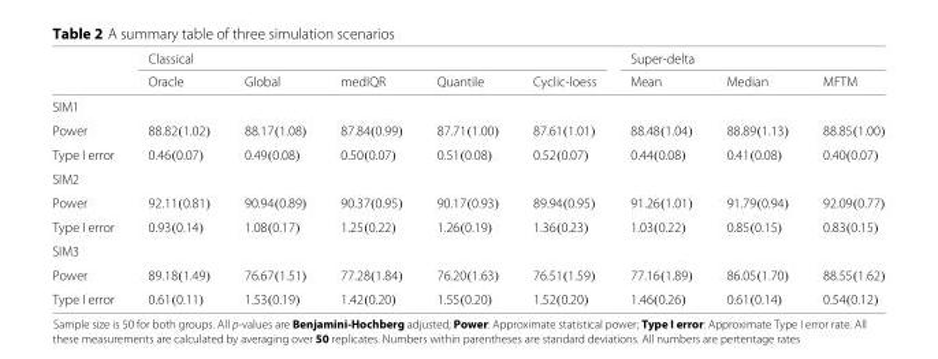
<table><thead><tr><td rowspan="2"></td><td colspan="4">Classical</td><td rowspan="2">Cyclic-loess</td><td colspan="3">Super-delta</td></tr><tr><td>Oracle</td><td>Global</td><td>medIQR</td><td>Quantile</td><td>Mean</td><td>Median</td><td>MFTM</td></tr></thead><tbody><tr><td colspan="9">SIM1</td></tr><tr><td>Power</td><td>88.82(1.02)</td><td>88.17(1.08)</td><td>87.84(0.99)</td><td>87.71(1.00)</td><td>87.61(1.01)</td><td>88.48(1.04)</td><td>88.89(1.13)</td><td>88.85(1.00)</td></tr><tr><td>Type I error</td><td>0.46(0.07)</td><td>0.49(0.08)</td><td>0.50(0.07)</td><td>0.51(0.08)</td><td>0.52(0.07)</td><td>0.44(0.08)</td><td>0.41(0.08)</td><td>0.40(0.07)</td></tr><tr><td colspan="9">SIM2</td></tr><tr><td>Power</td><td>92.11(0.81)</td><td>90.94(0.89)</td><td>90.37(0.95)</td><td>90.17(0.93)</td><td>89.94(0.95)</td><td>91.26(1.01)</td><td>91.79(0.94)</td><td>92.09(0.77)</td></tr><tr><td>Type I error</td><td>0.93(0.14)</td><td>1.08(0.17)</td><td>1.25(0.22)</td><td>1.26(0.19)</td><td>1.36(0.23)</td><td>1.03(0.22)</td><td>0.85(0.15)</td><td>0.83(0.15)</td></tr><tr><td colspan="9">SIM3</td></tr><tr><td>Power</td><td>89.18(1.49)</td><td>76.67(1.51)</td><td>77.28(1.84)</td><td>76.20(1.63)</td><td>76.51(1.59)</td><td>77.16(1.89)</td><td>86.05(1.70)</td><td>88.55(1.62)</td></tr><tr><td>Type I error</td><td>0.61(0.11)</td><td>1.53(0.19)</td><td>1.42(0.20)</td><td>1.55(0.20)</td><td>1.52(0.20)</td><td>1.46(0.26)</td><td>0.61(0.14)</td><td>0.54(0.12)</td></tr></tbody></table>